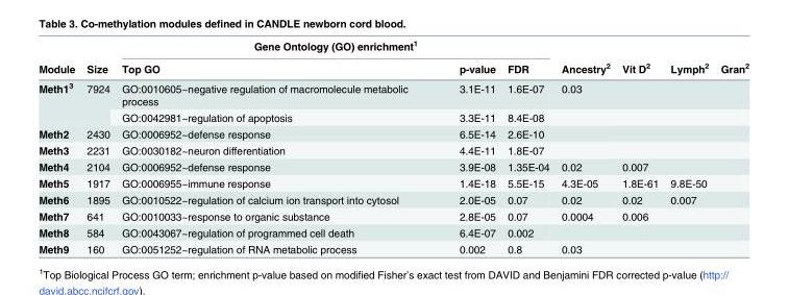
<table><thead><tr><td rowspan="2">Module</td><td rowspan="2">Size</td><td colspan="3">Gene Ontology (GO) enrichment<sup>1</sup></td><td rowspan="2">Ancestry<sup>2</sup></td><td rowspan="2">Vit D<sup>2</sup></td><td rowspan="2">Lymph<sup>2</sup></td><td rowspan="2">Gran<sup>2</sup></td></tr><tr><td>Top GO</td><td>p-value</td><td>FDR</td></tr></thead><tbody><tr><td rowspan="2">Meth1<sup>3</sup></td><td rowspan="2">7924</td><td>GO:0010605~negative regulation of macromolecule metabolic process</td><td>3.1E-11</td><td>1.6E-07</td><td>0.03</td><td></td><td></td><td></td></tr><tr><td>GO:0042981~regulation of apoptosis</td><td>3.3E-11</td><td>8.4E-08</td><td></td><td></td><td></td><td></td></tr><tr><td>Meth2</td><td>2430</td><td>GO:0006952~defense response</td><td>6.5E-14</td><td>2.6E-10</td><td></td><td></td><td></td><td></td></tr><tr><td>Meth3</td><td>2231</td><td>GO:0030182~neuron differentiation</td><td>4.4E-11</td><td>1.8E-07</td><td></td><td></td><td></td><td></td></tr><tr><td>Meth4</td><td>2104</td><td>GO:0006952~defense response</td><td>3.9E-08</td><td>1.35E-04</td><td>0.02</td><td>0.007</td><td></td><td></td></tr><tr><td>Meth5</td><td>1917</td><td>GO:0006955~immune response</td><td>1.4E-18</td><td>5.5E-15</td><td>4.3E-05</td><td>1.8E-61</td><td>9.8E-50</td><td></td></tr><tr><td>Meth6</td><td>1895</td><td>GO:0010522~regulation of calcium ion transport into cytosol</td><td>2.0E-05</td><td>0.07</td><td>0.02</td><td>0.02</td><td>0.007</td><td></td></tr><tr><td>Meth7</td><td>641</td><td>GO:0010033~response to organic substance</td><td>2.8E-05</td><td>0.07</td><td>0.0004</td><td>0.006</td><td></td><td></td></tr><tr><td>Meth8</td><td>584</td><td>GO:0043067~regulation of programmed cell death</td><td>6.4E-07</td><td>0.002</td><td></td><td></td><td></td><td></td></tr><tr><td>Meth9</td><td>160</td><td>GO:0051252~regulation of RNA metabolic process</td><td>0.002</td><td>0.8</td><td>0.03</td><td></td><td></td><td></td></tr></tbody></table>